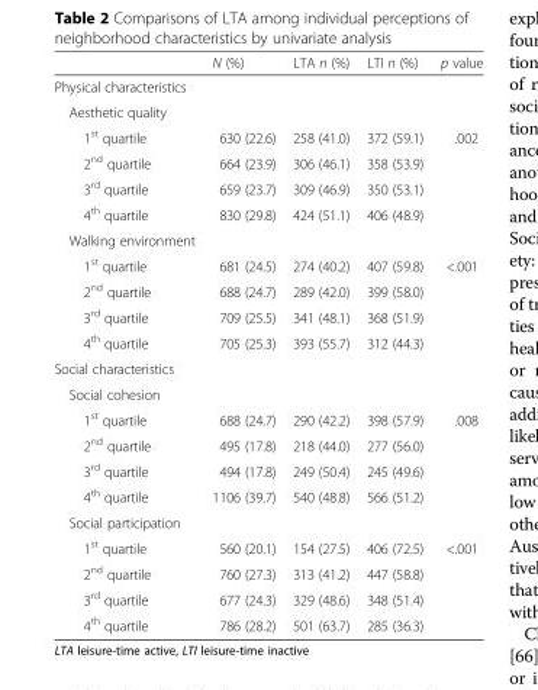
<table><thead><tr><td></td><td>N (%)</td><td>LTA n (%)</td><td>LTI n (%)</td><td>p value</td></tr></thead><tbody><tr><td colspan="5">Physical characteristics</td></tr><tr><td colspan="5">Aesthetic quality</td></tr><tr><td>1<sup>st</sup> quartile</td><td>630 (22.6)</td><td>258 (41.0)</td><td>372 (59.1)</td><td rowspan="4">.002</td></tr><tr><td>2<sup>nd</sup> quartile</td><td>664 (23.9)</td><td>306 (46.1)</td><td>358 (53.9)</td></tr><tr><td>3<sup>rd</sup> quartile</td><td>659 (23.7)</td><td>309 (46.9)</td><td>350 (53.1)</td></tr><tr><td>4<sup>th</sup> quartile</td><td>830 (29.8)</td><td>424 (51.1)</td><td>406 (48.9)</td></tr><tr><td colspan="5">Walking environment</td></tr><tr><td>1<sup>st</sup> quartile</td><td>681 (24.5)</td><td>274 (40.2)</td><td>407 (59.8)</td><td rowspan="2">&lt;.001</td></tr><tr><td>2<sup>nd</sup> quartile</td><td>688 (24.7)</td><td>289 (42.0)</td><td>399 (58.0)</td></tr><tr><td>3<sup>rd</sup> quartile</td><td>709 (25.5)</td><td>341 (48.1)</td><td>368 (51.9)</td><td></td></tr><tr><td>4<sup>th</sup> quartile</td><td>705 (25.3)</td><td>393 (55.7)</td><td>312 (44.3)</td><td></td></tr><tr><td colspan="5">Social characteristics</td></tr><tr><td colspan="5">Social cohesion</td></tr><tr><td>1<sup>st</sup> quartile</td><td>688 (24.7)</td><td>290 (42.2)</td><td>398 (57.9)</td><td rowspan="4">.008</td></tr><tr><td>2<sup>nd</sup> quartile</td><td>495 (17.8)</td><td>218 (44.0)</td><td>277 (56.0)</td></tr><tr><td>3<sup>rd</sup> quartile</td><td>494 (17.8)</td><td>249 (50.4)</td><td>245 (49.6)</td></tr><tr><td>4<sup>th</sup> quartile</td><td>1106 (39.7)</td><td>540 (48.8)</td><td>566 (51.2)</td></tr><tr><td colspan="5">Social participation</td></tr><tr><td>1<sup>st</sup> quartile</td><td>560 (20.1)</td><td>154 (27.5)</td><td>406 (72.5)</td><td rowspan="2">&lt;.001</td></tr><tr><td>2<sup>nd</sup> quartile</td><td>760 (27.3)</td><td>313 (41.2)</td><td>447 (58.8)</td></tr><tr><td>3<sup>rd</sup> quartile</td><td>677 (24.3)</td><td>329 (48.6)</td><td>348 (51.4)</td><td></td></tr><tr><td>4<sup>th</sup> quartile</td><td>786 (28.2)</td><td>501 (63.7)</td><td>285 (36.3)</td><td></td></tr></tbody></table>